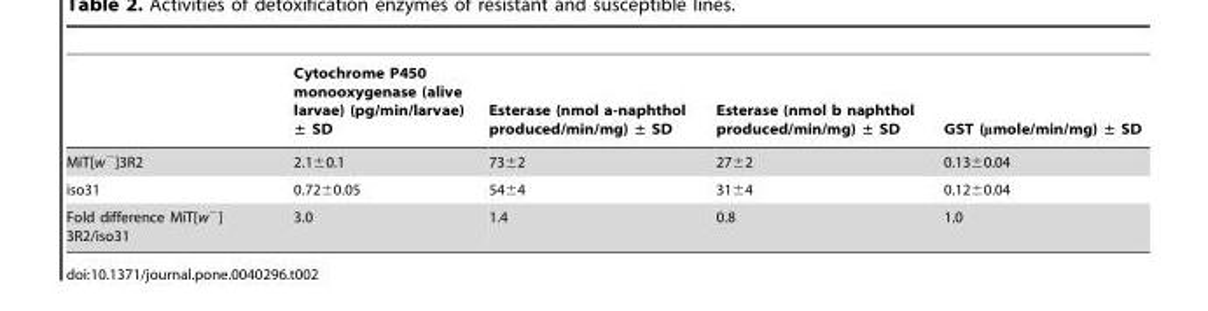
<table><thead><tr><td></td><td>Cytochrome P450 monooxygenase (alive larvae) (pg/min/larvae) ± SD</td><td>Esterase (nmol a-naphthol produced/min/mg) ± SD</td><td>Esterase (nmol b naphthol produced/min/mg) ± SD</td><td>GST (μmole/min/mg) ± SD</td></tr></thead><tbody><tr><td>MiT[w<sup>−</sup>]3R2</td><td>2.1±0.1</td><td>73±2</td><td>27±2</td><td>0.13±0.04</td></tr><tr><td>iso31</td><td>0.72±0.05</td><td>54±4</td><td>31±4</td><td>0.12±0.04</td></tr><tr><td>Fold difference MiT[w<sup>−</sup>] 3R2/iso31</td><td>3.0</td><td>1.4</td><td>0.8</td><td>1.0</td></tr></tbody></table>